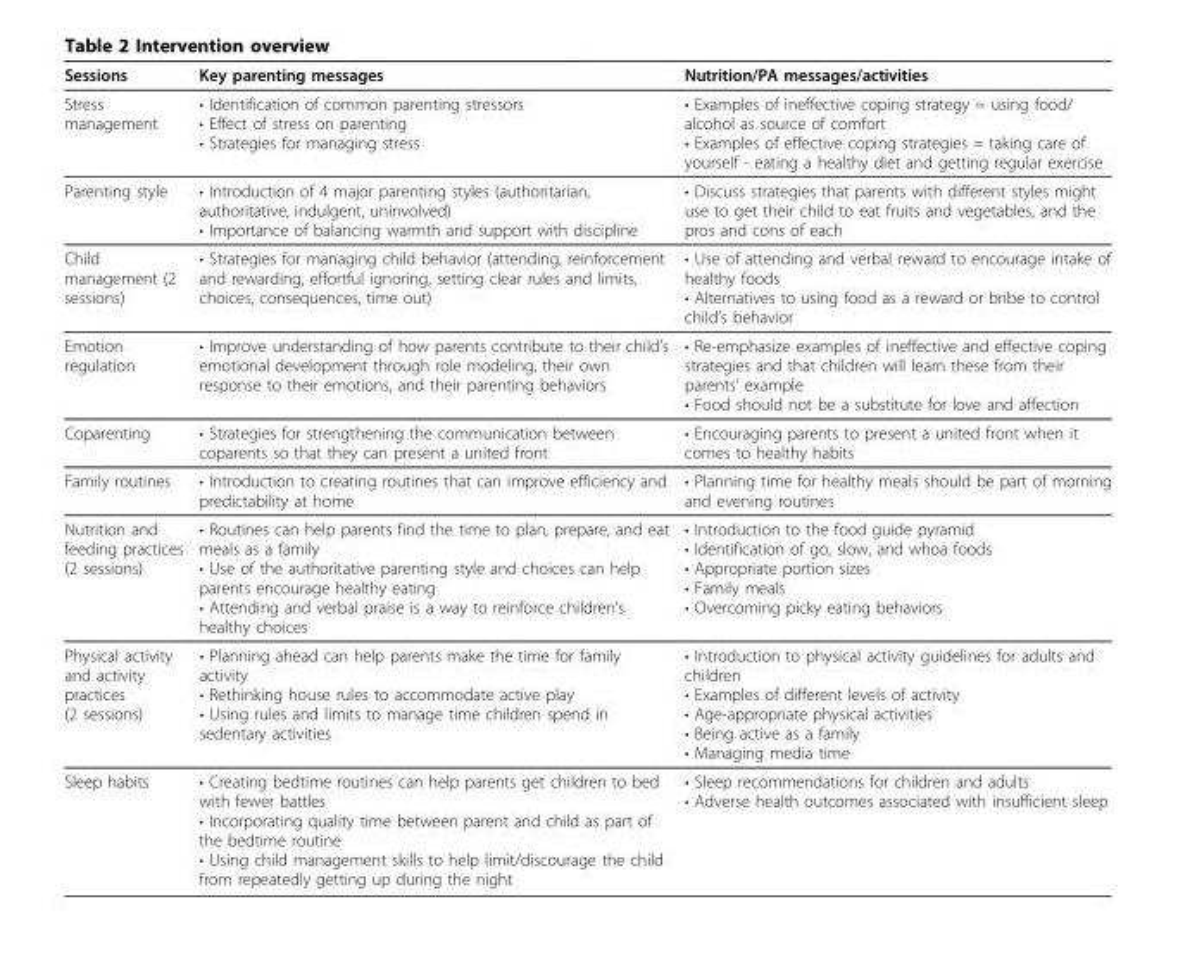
<table><thead><tr><td>Sessions</td><td>Key parenting messages</td><td>Nutrition/PA messages/activities</td></tr></thead><tbody><tr><td>Stress management</td><td>• Identification of common parenting stressors • Effect of stress on parenting • Strategies for managing stress</td><td>• Examples of ineffective coping strategy = using food/ alcohol as source of comfort • Examples of effective coping strategies = taking care of yourself - eating a healthy diet and getting regular exercise</td></tr><tr><td>Parenting style</td><td>• Introduction of 4 major parenting styles (authoritarian, authoritative, indulgent, uninvolved) • Importance of balancing warmth and support with discipline</td><td>• Discuss strategies that parents with different styles might use to get their child to eat fruits and vegetables, and the pros and cons of each</td></tr><tr><td>Child management (2 sessions)</td><td>• Strategies for managing child behavior (attending, reinforcement and rewarding, effortful ignoring, setting clear rules and limits, choices, consequences, time out)</td><td>• Use of attending and verbal reward to encourage intake of healthy foods • Alternatives to using food as a reward or bribe to control child’s behavior</td></tr><tr><td>Emotion regulation</td><td>• Improve understanding of how parents contribute to their child’s emotional development through role modeling, their own response to their emotions, and their parenting behaviors</td><td>• Re-emphasize examples of ineffective and effective coping strategies and that children will learn these from their parents’ example • Food should not be a substitute for love and affection</td></tr><tr><td>Coparenting</td><td>• Strategies for strengthening the communication between coparents so that they can present a united front</td><td>• Encouraging parents to present a united front when it comes to healthy habits</td></tr><tr><td>Family routines</td><td>• Introduction to creating routines that can improve efficiency and predictability at home</td><td>• Planning time for healthy meals should be part of morning and evening routines</td></tr><tr><td>Nutrition and feeding practices (2 sessions)</td><td>• Routines can help parents find the time to plan, prepare, and eat meals as a family • Use of the authoritative parenting style and choices can help parents encourage healthy eating • Attending and verbal praise is a way to reinforce children’s healthy choices</td><td>• Introduction to the food guide pyramid • Identification of go, slow, and whoa foods • Appropriate portion sizes • Family meals • Overcoming picky eating behaviors</td></tr><tr><td>Physical activity and activity practices (2 sessions)</td><td>• Planning ahead can help parents make the time for family activity • Rethinking house rules to accommodate active play • Using rules and limits to manage time children spend in sedentary activities</td><td>• Introduction to physical activity guidelines for adults and children • Examples of different levels of activity • Age-appropriate physical activities • Being active as a family • Managing media time</td></tr><tr><td>Sleep habits</td><td>• Creating bedtime routines can help parents get children to bed with fewer battles • Incorporating quality time between parent and child as part of the bedtime routine • Using child management skills to help limit/discourage the child from repeatedly getting up during the night</td><td>• Sleep recommendations for children and adults • Adverse health outcomes associated with insufficient sleep</td></tr></tbody></table>